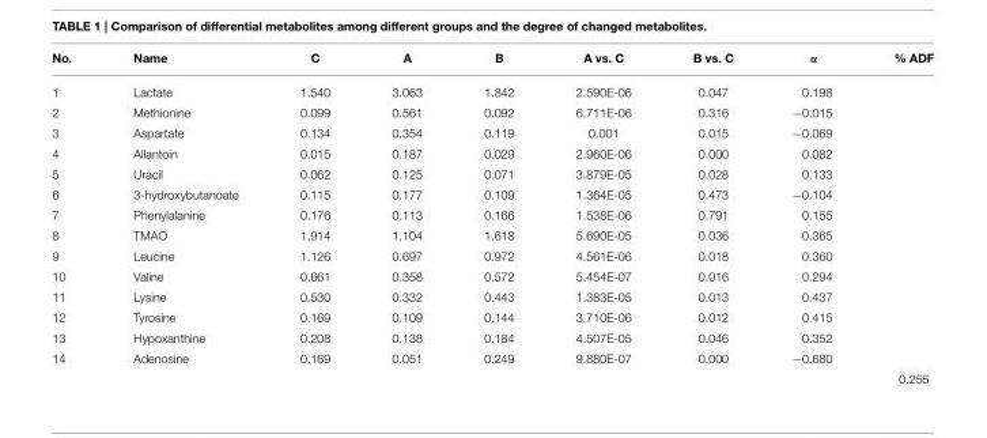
<table><thead><tr><td>No.</td><td>Name</td><td>C</td><td>A</td><td>B</td><td>A vs. C</td><td>B vs. C</td><td>α</td><td>% ADF</td></tr></thead><tbody><tr><td>1</td><td>Lactate</td><td>1.540</td><td>3.063</td><td>1.842</td><td>2.590E-06</td><td>0.047</td><td>0.198</td><td></td></tr><tr><td>2</td><td>Methionine</td><td>0.099</td><td>0.561</td><td>0.092</td><td>6.711E-06</td><td>0.316</td><td>−0.015</td><td></td></tr><tr><td>3</td><td>Aspartate</td><td>0.134</td><td>0.354</td><td>0.119</td><td>0.001</td><td>0.015</td><td>−0.069</td><td></td></tr><tr><td>4</td><td>Allantoin</td><td>0.015</td><td>0.187</td><td>0.029</td><td>2.960E-06</td><td>0.000</td><td>0.082</td><td></td></tr><tr><td>5</td><td>Uracil</td><td>0.062</td><td>0.125</td><td>0.071</td><td>3.879E-05</td><td>0.028</td><td>0.133</td><td></td></tr><tr><td>6</td><td>3-hydroxybutanoate</td><td>0.115</td><td>0.177</td><td>0.109</td><td>1.364E-05</td><td>0.473</td><td>−0.104</td><td></td></tr><tr><td>7</td><td>Phenylalanine</td><td>0.176</td><td>0.113</td><td>0.166</td><td>1.538E-06</td><td>0.791</td><td>0.155</td><td></td></tr><tr><td>8</td><td>TMAO</td><td>1.914</td><td>1.104</td><td>1.618</td><td>5.690E-05</td><td>0.036</td><td>0.365</td><td></td></tr><tr><td>9</td><td>Leucine</td><td>1.126</td><td>0.697</td><td>0.972</td><td>4.561E-06</td><td>0.018</td><td>0.360</td><td></td></tr><tr><td>10</td><td>Valine</td><td>0.661</td><td>0.358</td><td>0.572</td><td>5.454E-07</td><td>0.016</td><td>0.294</td><td></td></tr><tr><td>11</td><td>Lysine</td><td>0.530</td><td>0.332</td><td>0.443</td><td>1.383E-05</td><td>0.013</td><td>0.437</td><td></td></tr><tr><td>12</td><td>Tyrosine</td><td>0.169</td><td>0.109</td><td>0.144</td><td>3.710E-06</td><td>0.012</td><td>0.415</td><td></td></tr><tr><td>13</td><td>Hypoxanthine</td><td>0.208</td><td>0.138</td><td>0.184</td><td>4.507E-05</td><td>0.046</td><td>0.352</td><td></td></tr><tr><td rowspan="2">14</td><td>Adenosine</td><td>0.169</td><td>0.051</td><td>0.249</td><td>9.880E-07</td><td>0.000</td><td>−0.680</td><td></td></tr><tr><td></td><td></td><td></td><td></td><td></td><td></td><td></td><td>0.255</td></tr></tbody></table>